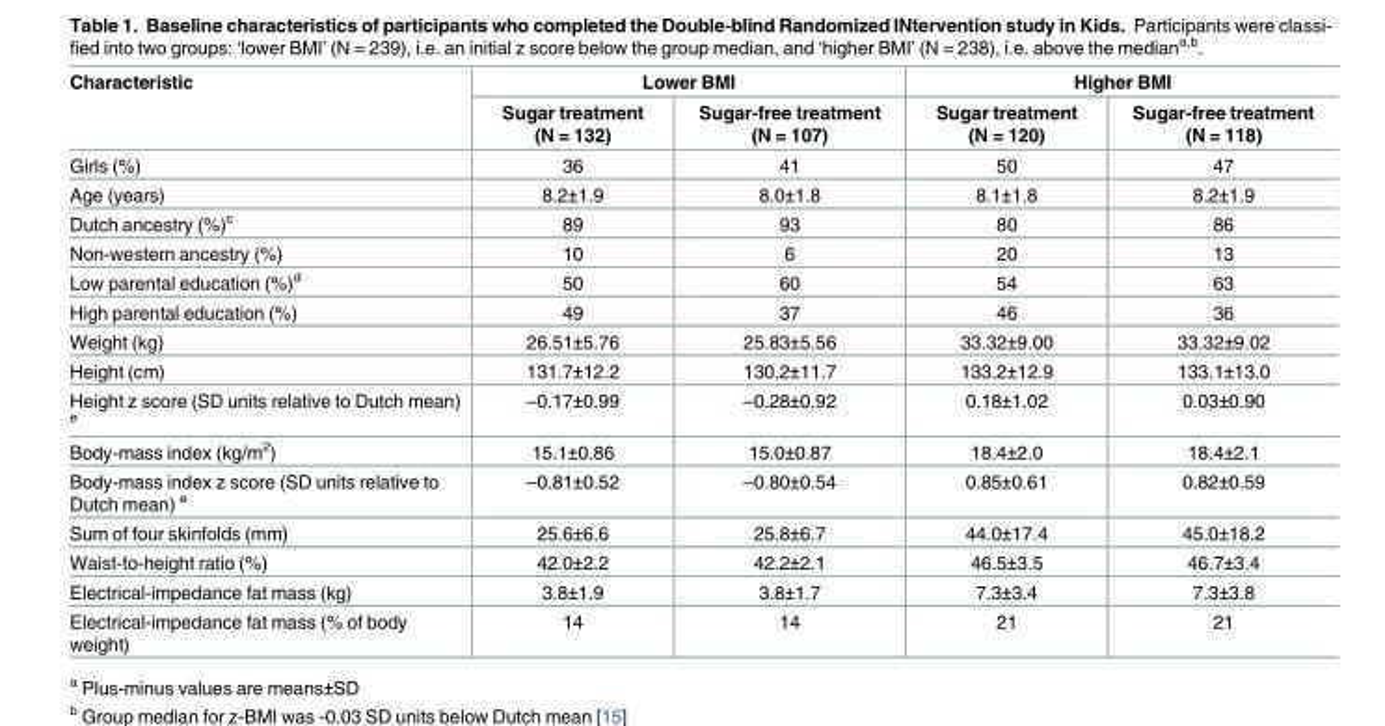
<table><thead><tr><td rowspan="2">Characteristic</td><td colspan="2">Lower BMI</td><td colspan="2">Higher BMI</td></tr><tr><td>Sugar treatment (N = 132)</td><td>Sugar-free treatment (N = 107)</td><td>Sugar treatment (N = 120)</td><td>Sugar-free treatment (N = 118)</td></tr></thead><tbody><tr><td>Girls (%)</td><td>36</td><td>41</td><td>50</td><td>47</td></tr><tr><td>Age (years)</td><td>8.2±1.9</td><td>8.0±1.8</td><td>8.1±1.8</td><td>8.2±1.9</td></tr><tr><td>Dutch ancestry (%)<sup>c</sup></td><td>89</td><td>93</td><td>80</td><td>86</td></tr><tr><td>Non-western ancestry (%)</td><td>10</td><td>6</td><td>20</td><td>13</td></tr><tr><td>Low parental education (%)<sup>d</sup></td><td>50</td><td>60</td><td>54</td><td>63</td></tr><tr><td>High parental education (%)</td><td>49</td><td>37</td><td>46</td><td>36</td></tr><tr><td>Weight (kg)</td><td>26.51±5.76</td><td>25.83±5.56</td><td>33.32±9.00</td><td>33.32±9.02</td></tr><tr><td>Height (cm)</td><td>131.7±12.2</td><td>130.2±11.7</td><td>133.2±12.9</td><td>133.1±13.0</td></tr><tr><td>Height z score (SD units relative to Dutch mean) <sup>e</sup></td><td>–0.17±0.99</td><td>–0.28±0.92</td><td>0.18±1.02</td><td>0.03±0.90</td></tr><tr><td>Body-mass index (kg/m<sup>2</sup>)</td><td>15.1±0.86</td><td>15.0±0.87</td><td>18.4±2.0</td><td>18.4±2.1</td></tr><tr><td>Body-mass index z score (SD units relative to Dutch mean) <sup>e</sup></td><td>–0.81±0.52</td><td>–0.80±0.54</td><td>0.85±0.61</td><td>0.82±0.59</td></tr><tr><td>Sum of four skinfolds (mm)</td><td>25.6±6.6</td><td>25.8±6.7</td><td>44.0±17.4</td><td>45.0±18.2</td></tr><tr><td>Waist-to-height ratio (%)</td><td>42.0±2.2</td><td>42.2±2.1</td><td>46.5±3.5</td><td>46.7±3.4</td></tr><tr><td>Electrical-impedance fat mass (kg)</td><td>3.8±1.9</td><td>3.8±1.7</td><td>7.3±3.4</td><td>7.3±3.8</td></tr><tr><td>Electrical-impedance fat mass (% of body weight)</td><td>14</td><td>14</td><td>21</td><td>21</td></tr></tbody></table>